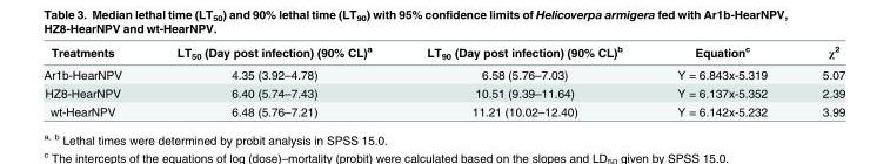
<table><thead><tr><td>Treatments</td><td>LT<sub>50</sub> (Day post infection) (90% CL)<sup>a</sup></td><td>LT<sub>90</sub> (Day post infection) (90% CL)<sup>b</sup></td><td>Equation<sup>c</sup></td><td>χ<sup>2</sup></td></tr></thead><tbody><tr><td>Ar1b-HearNPV</td><td>4.35 (3.92–4.78)</td><td>6.58 (5.76–7.03)</td><td>Y = 6.843x-5.319</td><td>5.07</td></tr><tr><td>HZ8-HearNPV</td><td>6.40 (5.74–7.43)</td><td>10.51 (9.39–11.64)</td><td>Y = 6.137x-5.352</td><td>2.39</td></tr><tr><td>wt-HearNPV</td><td>6.48 (5.76–7.21)</td><td>11.21 (10.02–12.40)</td><td>Y = 6.142x-5.232</td><td>3.99</td></tr></tbody></table>